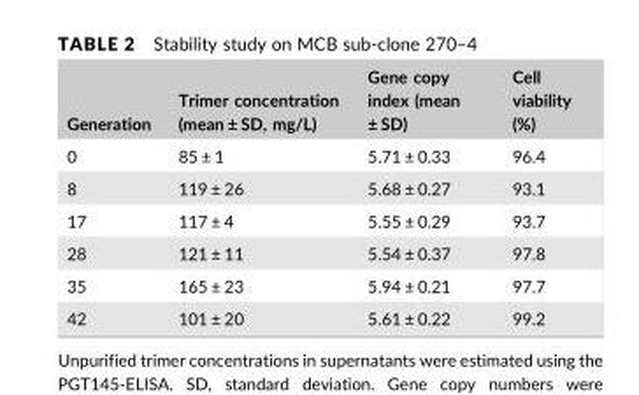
<table><thead><tr><td>Generation</td><td>Trimer concentration (mean ± SD, mg/L)</td><td>Gene copy index (mean ± SD)</td><td>Cell viability (%)</td></tr></thead><tbody><tr><td>0</td><td>85 ± 1</td><td>5.71 ± 0.33</td><td>96.4</td></tr><tr><td>8</td><td>119 ± 26</td><td>5.68 ± 0.27</td><td>93.1</td></tr><tr><td>17</td><td>117 ± 4</td><td>5.55 ± 0.29</td><td>93.7</td></tr><tr><td>28</td><td>121 ± 11</td><td>5.54 ± 0.37</td><td>97.8</td></tr><tr><td>35</td><td>165 ± 23</td><td>5.94 ± 0.21</td><td>97.7</td></tr><tr><td>42</td><td>101 ± 20</td><td>5.61 ± 0.22</td><td>99.2</td></tr></tbody></table>